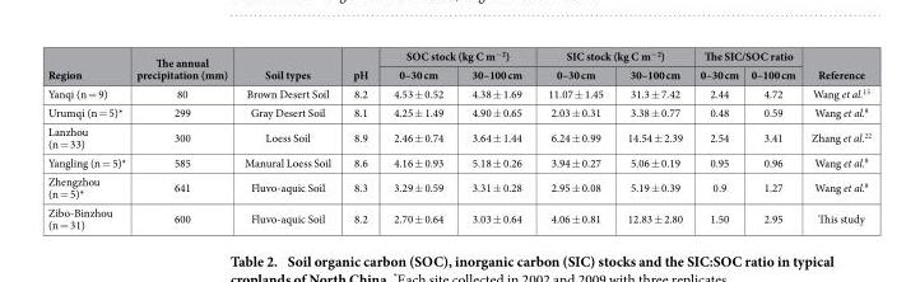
<table><thead><tr><td rowspan="2">Region</td><td rowspan="2">The annual precipitation (mm)</td><td rowspan="2">Soil types</td><td rowspan="2">pH</td><td colspan="2">SOC stock (kg C m<sup>−2</sup>)</td><td colspan="2">SIC stock (kg C m<sup>−2</sup>)</td><td colspan="2">The SIC/SOC ratio</td><td rowspan="2">Reference</td></tr><tr><td>0–30 cm</td><td>30–100 cm</td><td>0–30 cm</td><td>30–100 cm</td><td>0–30 cm</td><td>0–100 cm</td></tr></thead><tbody><tr><td>Yanqi (n = 9)</td><td>80</td><td>Brown Desert Soil</td><td>8.2</td><td>4.53 ± 0.52</td><td>4.38 ± 1.69</td><td>11.07 ± 1.45</td><td>31.3 ± 7.42</td><td>2.44</td><td>4.72</td><td>Wang et al.<sup>15</sup></td></tr><tr><td>Urumqi (n = 5)*</td><td>299</td><td>Gray Desert Soil</td><td>8.1</td><td>4.25 ± 1.49</td><td>4.90 ± 0.65</td><td>2.03 ± 0.31</td><td>3.38 ± 0.77</td><td>0.48</td><td>0.59</td><td>Wang et al.<sup>8</sup></td></tr><tr><td>Lanzhou (n = 33)</td><td>300</td><td>Loess Soil</td><td>8.9</td><td>2.46 ± 0.74</td><td>3.64 ± 1.44</td><td>6.24 ± 0.99</td><td>14.54 ± 2.39</td><td>2.54</td><td>3.41</td><td>Zhang et al.<sup>22</sup></td></tr><tr><td>Yangling (n = 5)*</td><td>585</td><td>Manural Loess Soil</td><td>8.6</td><td>4.16 ± 0.93</td><td>5.18 ± 0.26</td><td>3.94 ± 0.27</td><td>5.06 ± 0.19</td><td>0.95</td><td>0.96</td><td>Wang et al.<sup>8</sup></td></tr><tr><td>Zhengzhou (n = 5)*</td><td>641</td><td>Fluvo-aquic Soil</td><td>8.3</td><td>3.29 ± 0.59</td><td>3.31 ± 0.28</td><td>2.95 ± 0.08</td><td>5.19 ± 0.39</td><td>0.9</td><td>1.27</td><td>Wang et al.<sup>8</sup></td></tr><tr><td>Zibo-Binzhou (n = 31)</td><td>600</td><td>Fluvo-aquic Soil</td><td>8.2</td><td>2.70 ± 0.64</td><td>3.03 ± 0.64</td><td>4.06 ± 0.81</td><td>12.83 ± 2.80</td><td>1.50</td><td>2.95</td><td>This study</td></tr></tbody></table>